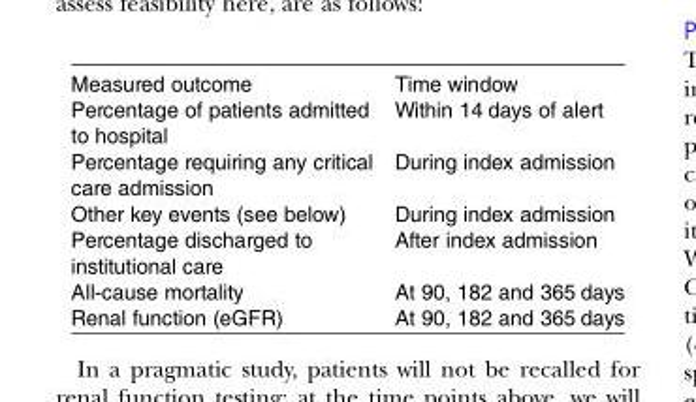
<table><tbody><tr><td>Measured outcome</td><td>Time window</td></tr><tr><td>Percentage of patients admitted to hospital</td><td>Within 14 days of alert</td></tr><tr><td>Percentage requiring any critical care admission</td><td>During index admission</td></tr><tr><td>Other key events (see below)</td><td>During index admission</td></tr><tr><td>Percentage discharged to institutional care</td><td>After index admission</td></tr><tr><td>All-cause mortality</td><td>At 90, 182 and 365 days</td></tr><tr><td>Renal function (eGFR)</td><td>At 90, 182 and 365 days</td></tr></tbody></table>